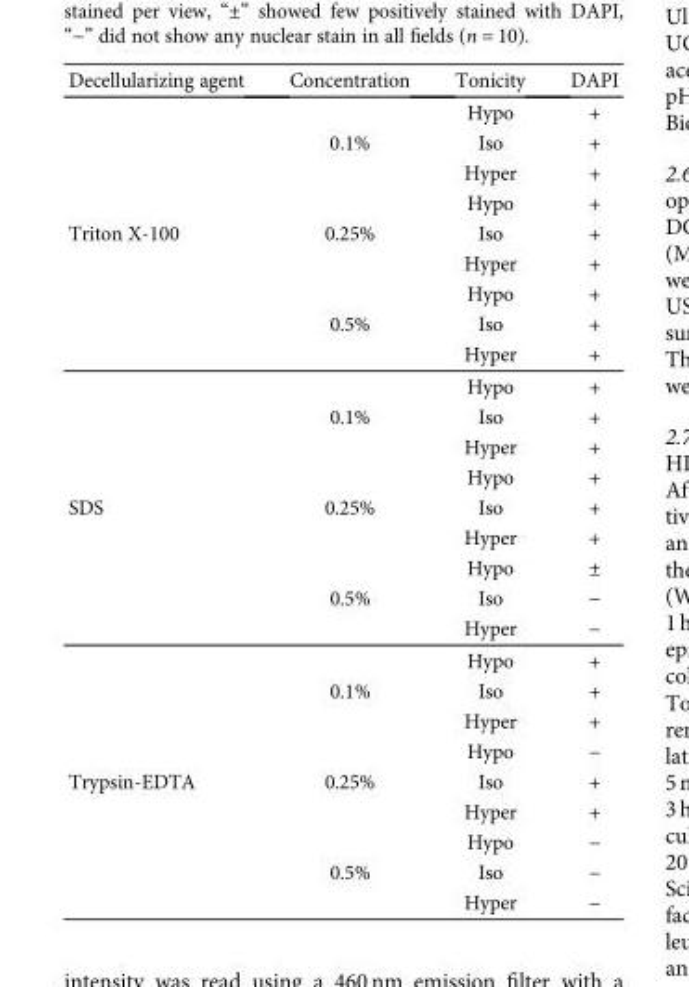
<table><thead><tr><td>Decellularizing agent</td><td>Concentration</td><td>Tonicity</td><td>DAPI</td></tr></thead><tbody><tr><td rowspan="9">Triton X-100</td><td rowspan="3">0.1%</td><td>Hypo</td><td>+</td></tr><tr><td>Iso</td><td>+</td></tr><tr><td>Hyper</td><td>+</td></tr><tr><td rowspan="3">0.25%</td><td>Hypo</td><td>+</td></tr><tr><td>Iso</td><td>+</td></tr><tr><td>Hyper</td><td>+</td></tr><tr><td rowspan="3">0.5%</td><td>Hypo</td><td>+</td></tr><tr><td>Iso</td><td>+</td></tr><tr><td>Hyper</td><td>+</td></tr><tr><td rowspan="9">SDS</td><td rowspan="3">0.1%</td><td>Hypo</td><td>+</td></tr><tr><td>Iso</td><td>+</td></tr><tr><td>Hyper</td><td>+</td></tr><tr><td rowspan="3">0.25%</td><td>Hypo</td><td>+</td></tr><tr><td>Iso</td><td>+</td></tr><tr><td>Hyper</td><td>+</td></tr><tr><td rowspan="3">0.5%</td><td>Hypo</td><td>±</td></tr><tr><td>Iso</td><td>−</td></tr><tr><td>Hyper</td><td>−</td></tr><tr><td rowspan="9">Trypsin-EDTA</td><td rowspan="3">0.1%</td><td>Hypo</td><td>+</td></tr><tr><td>Iso</td><td>+</td></tr><tr><td>Hyper</td><td>+</td></tr><tr><td rowspan="3">0.25%</td><td>Hypo</td><td>−</td></tr><tr><td>Iso</td><td>+</td></tr><tr><td>Hyper</td><td>+</td></tr><tr><td rowspan="3">0.5%</td><td>Hypo</td><td>−</td></tr><tr><td>Iso</td><td>−</td></tr><tr><td>Hyper</td><td>−</td></tr></tbody></table>